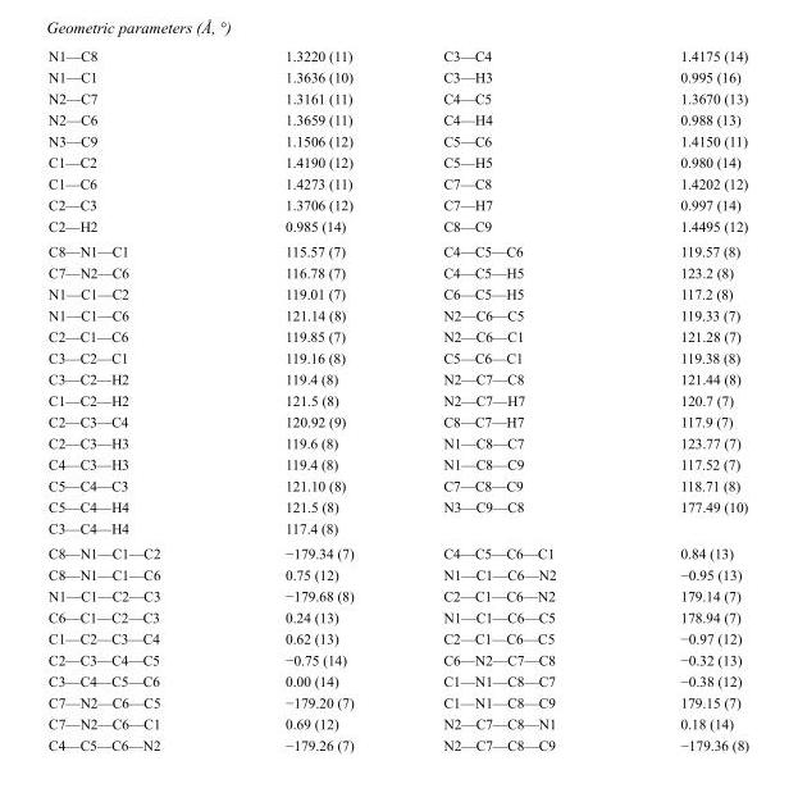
<table><tbody><tr><td>N1—C8</td><td>1.3220 (11)</td><td>C3—C4</td><td>1.4175 (14)</td></tr><tr><td>N1—C1</td><td>1.3636 (10)</td><td>C3—H3</td><td>0.995 (16)</td></tr><tr><td>N2—C7</td><td>1.3161 (11)</td><td>C4—C5</td><td>1.3670 (13)</td></tr><tr><td>N2—C6</td><td>1.3659 (11)</td><td>C4—H4</td><td>0.988 (13)</td></tr><tr><td>N3—C9</td><td>1.1506 (12)</td><td>C5—C6</td><td>1.4150 (11)</td></tr><tr><td>C1—C2</td><td>1.4190 (12)</td><td>C5—H5</td><td>0.980 (14)</td></tr><tr><td>C1—C6</td><td>1.4273 (11)</td><td>C7—C8</td><td>1.4202 (12)</td></tr><tr><td>C2—C3</td><td>1.3706 (12)</td><td>C7—H7</td><td>0.997 (14)</td></tr><tr><td>C2—H2</td><td>0.985 (14)</td><td>C8—C9</td><td>1.4495 (12)</td></tr><tr><td>C8—N1—C1</td><td>115.57 (7)</td><td>C4—C5—C6</td><td>119.57 (8)</td></tr><tr><td>C7—N2—C6</td><td>116.78 (7)</td><td>C4—C5—H5</td><td>123.2 (8)</td></tr><tr><td>N1—C1—C2</td><td>119.01 (7)</td><td>C6—C5—H5</td><td>117.2 (8)</td></tr><tr><td>N1—C1—C6</td><td>121.14 (8)</td><td>N2—C6—C5</td><td>119.33 (7)</td></tr><tr><td>C2—C1—C6</td><td>119.85 (7)</td><td>N2—C6—C1</td><td>121.28 (7)</td></tr><tr><td>C3—C2—C1</td><td>119.16 (8)</td><td>C5—C6—C1</td><td>119.38 (8)</td></tr><tr><td>C3—C2—H2</td><td>119.4 (8)</td><td>N2—C7—C8</td><td>121.44 (8)</td></tr><tr><td>C1—C2—H2</td><td>121.5 (8)</td><td>N2—C7—H7</td><td>120.7 (7)</td></tr><tr><td>C2—C3—C4</td><td>120.92 (9)</td><td>C8—C7—H7</td><td>117.9 (7)</td></tr><tr><td>C2—C3—H3</td><td>119.6 (8)</td><td>N1—C8—C7</td><td>123.77 (7)</td></tr><tr><td>C4—C3—H3</td><td>119.4 (8)</td><td>N1—C8—C9</td><td>117.52 (7)</td></tr><tr><td>C5—C4—C3</td><td>121.10 (8)</td><td>C7—C8—C9</td><td>118.71 (8)</td></tr><tr><td>C5—C4—H4</td><td>121.5 (8)</td><td>N3—C9—C8</td><td>177.49 (10)</td></tr><tr><td>C3—C4—H4</td><td>117.4 (8)</td><td></td><td></td></tr><tr><td>C8—N1—C1—C2</td><td>−179.34 (7)</td><td>C4—C5—C6—C1</td><td>0.84 (13)</td></tr><tr><td>C8—N1—C1—C6</td><td>0.75 (12)</td><td>N1—C1—C6—N2</td><td>−0.95 (13)</td></tr><tr><td>N1—C1—C2—C3</td><td>−179.68 (8)</td><td>C2—C1—C6—N2</td><td>179.14 (7)</td></tr><tr><td>C6—C1—C2—C3</td><td>0.24 (13)</td><td>N1—C1—C6—C5</td><td>178.94 (7)</td></tr><tr><td>C1—C2—C3—C4</td><td>0.62 (13)</td><td>C2—C1—C6—C5</td><td>−0.97 (12)</td></tr><tr><td>C2—C3—C4—C5</td><td>−0.75 (14)</td><td>C6—N2—C7—C8</td><td>−0.32 (13)</td></tr><tr><td>C3—C4—C5—C6</td><td>0.00 (14)</td><td>C1—N1—C8—C7</td><td>−0.38 (12)</td></tr><tr><td>C7—N2—C6—C5</td><td>−179.20 (7)</td><td>C1—N1—C8—C9</td><td>179.15 (7)</td></tr><tr><td>C7—N2—C6—C1</td><td>0.69 (12)</td><td>N2—C7—C8—N1</td><td>0.18 (14)</td></tr><tr><td>C4—C5—C6—N2</td><td>−179.26 (7)</td><td>N2—C7—C8—C9</td><td>−179.36 (8)</td></tr></tbody></table>